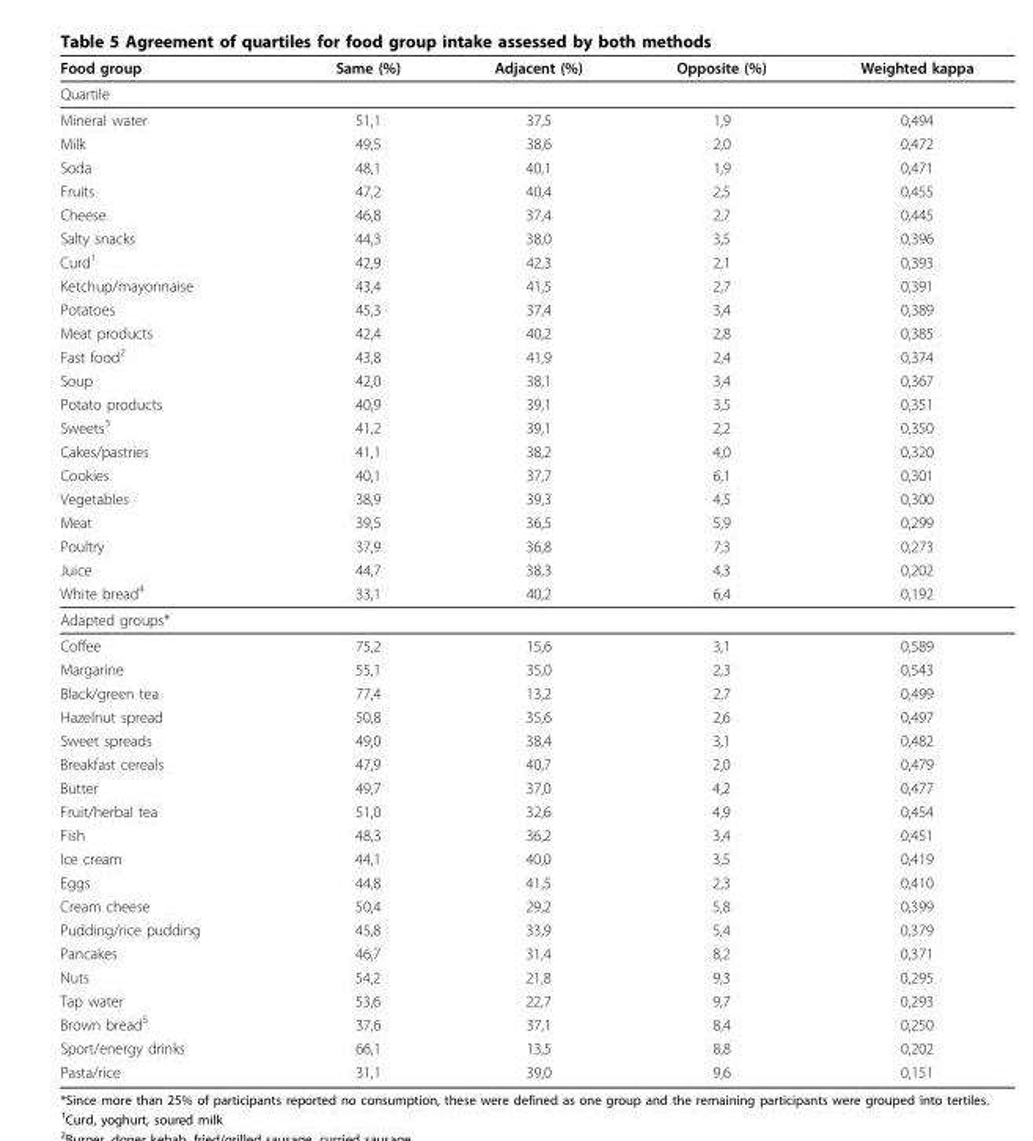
<table><thead><tr><td>Food group</td><td>Same (%)</td><td>Adjacent (%)</td><td>Opposite (%)</td><td>Weighted kappa</td></tr></thead><tbody><tr><td colspan="5">Quartile</td></tr><tr><td>Mineral water</td><td>51,1</td><td>37,5</td><td>1,9</td><td>0,494</td></tr><tr><td>Milk</td><td>49,5</td><td>38,6</td><td>2,0</td><td>0,472</td></tr><tr><td>Soda</td><td>48,1</td><td>40,1</td><td>1,9</td><td>0,471</td></tr><tr><td>Fruits</td><td>47,2</td><td>40,4</td><td>2,5</td><td>0,455</td></tr><tr><td>Cheese</td><td>46,8</td><td>37,4</td><td>2,7</td><td>0,445</td></tr><tr><td>Salty snacks</td><td>44,3</td><td>38,0</td><td>3,5</td><td>0,396</td></tr><tr><td>Curd<sup>1</sup></td><td>42,9</td><td>42,3</td><td>2,1</td><td>0,393</td></tr><tr><td>Ketchup/mayonnaise</td><td>43,4</td><td>41,5</td><td>2,7</td><td>0,391</td></tr><tr><td>Potatoes</td><td>45,3</td><td>37,4</td><td>3,4</td><td>0,389</td></tr><tr><td>Meat products</td><td>42,4</td><td>40,2</td><td>2,8</td><td>0,385</td></tr><tr><td>Fast food<sup>2</sup></td><td>43,8</td><td>41,9</td><td>2,4</td><td>0,374</td></tr><tr><td>Soup</td><td>42,0</td><td>38,1</td><td>3,4</td><td>0,367</td></tr><tr><td>Potato products</td><td>40,9</td><td>39,1</td><td>3,5</td><td>0,351</td></tr><tr><td>Sweets<sup>3</sup></td><td>41,2</td><td>39,1</td><td>2,2</td><td>0,350</td></tr><tr><td>Cakes/pastries</td><td>41,1</td><td>38,2</td><td>4,0</td><td>0,320</td></tr><tr><td>Cookies</td><td>40,1</td><td>37,7</td><td>6,1</td><td>0,301</td></tr><tr><td>Vegetables</td><td>38,9</td><td>39,3</td><td>4,5</td><td>0,300</td></tr><tr><td>Meat</td><td>39,5</td><td>36,5</td><td>5,9</td><td>0,299</td></tr><tr><td>Poultry</td><td>37,9</td><td>36,8</td><td>7,3</td><td>0,273</td></tr><tr><td>Juice</td><td>44,7</td><td>38,3</td><td>4,3</td><td>0,202</td></tr><tr><td>White bread<sup>4</sup></td><td>33,1</td><td>40,2</td><td>6,4</td><td>0,192</td></tr><tr><td colspan="5">Adapted groups*</td></tr><tr><td>Coffee</td><td>75,2</td><td>15,6</td><td>3,1</td><td>0,589</td></tr><tr><td>Margarine</td><td>55,1</td><td>35,0</td><td>2,3</td><td>0,543</td></tr><tr><td>Black/green tea</td><td>77,4</td><td>13,2</td><td>2,7</td><td>0,499</td></tr><tr><td>Hazelnut spread</td><td>50,8</td><td>35,6</td><td>2,6</td><td>0,497</td></tr><tr><td>Sweet spreads</td><td>49,0</td><td>38,4</td><td>3,1</td><td>0,482</td></tr><tr><td>Breakfast cereals</td><td>47,9</td><td>40,7</td><td>2,0</td><td>0,479</td></tr><tr><td>Butter</td><td>49,7</td><td>37,0</td><td>4,2</td><td>0,477</td></tr><tr><td>Fruit/herbal tea</td><td>51,0</td><td>32,6</td><td>4,9</td><td>0,454</td></tr><tr><td>Fish</td><td>48,3</td><td>36,2</td><td>3,4</td><td>0,451</td></tr><tr><td>Ice cream</td><td>44,1</td><td>40,0</td><td>3,5</td><td>0,419</td></tr><tr><td>Eggs</td><td>44,8</td><td>41,5</td><td>2,3</td><td>0,410</td></tr><tr><td>Cream cheese</td><td>50,4</td><td>29,2</td><td>5,8</td><td>0,399</td></tr><tr><td>Pudding/rice pudding</td><td>45,8</td><td>33,9</td><td>5,4</td><td>0,379</td></tr><tr><td>Pancakes</td><td>46,7</td><td>31,4</td><td>8,2</td><td>0,371</td></tr><tr><td>Nuts</td><td>54,2</td><td>21,8</td><td>9,3</td><td>0,295</td></tr><tr><td>Tap water</td><td>53,6</td><td>22,7</td><td>9,7</td><td>0,293</td></tr><tr><td>Brown bread<sup>5</sup></td><td>37,6</td><td>37,1</td><td>8,4</td><td>0,250</td></tr><tr><td>Sport/energy drinks</td><td>66,1</td><td>13,5</td><td>8,8</td><td>0,202</td></tr><tr><td>Pasta/rice</td><td>31,1</td><td>39,0</td><td>9,6</td><td>0,151</td></tr></tbody></table>